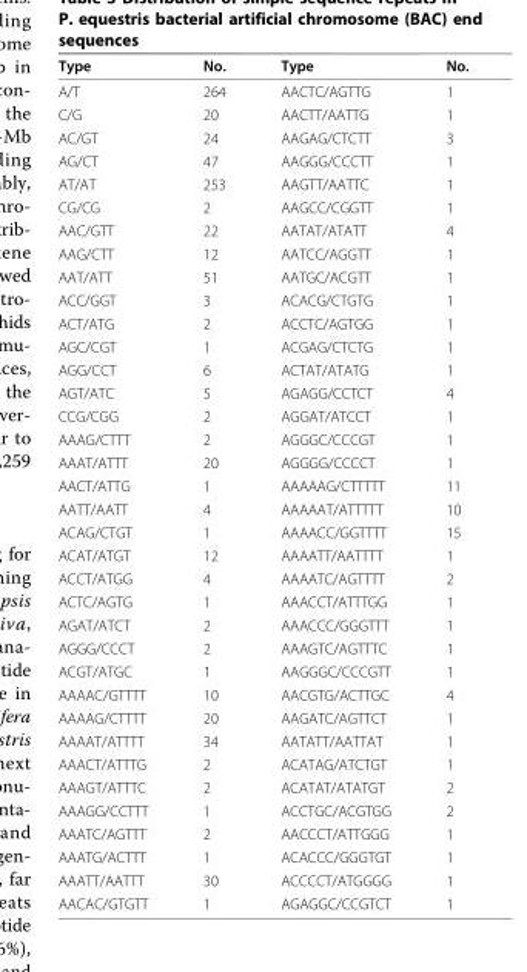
<table><thead><tr><td>Type</td><td>No.</td><td>Type</td><td>No.</td></tr></thead><tbody><tr><td>A/T</td><td>264</td><td>AACTC/AGTTG</td><td>1</td></tr><tr><td>C/G</td><td>20</td><td>AACTT/AATTG</td><td>1</td></tr><tr><td>AC/GT</td><td>24</td><td>AAGAG/CTCTT</td><td>3</td></tr><tr><td>AG/CT</td><td>47</td><td>AAGGG/CCCTT</td><td>1</td></tr><tr><td>AT/AT</td><td>253</td><td>AAGTT/AATTC</td><td>1</td></tr><tr><td>CG/CG</td><td>2</td><td>AAGCC/CGGTT</td><td>1</td></tr><tr><td>AAC/GTT</td><td>22</td><td>AATAT/ATATT</td><td>4</td></tr><tr><td>AAG/CTT</td><td>12</td><td>AATCC/AGGTT</td><td>1</td></tr><tr><td>AAT/ATT</td><td>51</td><td>AATGC/ACGTT</td><td>1</td></tr><tr><td>ACC/GGT</td><td>3</td><td>ACACG/CTGTG</td><td>1</td></tr><tr><td>ACT/ATG</td><td>2</td><td>ACCTC/AGTGG</td><td>1</td></tr><tr><td>AGC/CGT</td><td>1</td><td>ACGAG/CTCTG</td><td>1</td></tr><tr><td>AGG/CCT</td><td>6</td><td>ACTAT/ATATG</td><td>1</td></tr><tr><td>AGT/ATC</td><td>5</td><td>AGAGG/CCTCT</td><td>4</td></tr><tr><td>CCG/CGG</td><td>2</td><td>AGGAT/ATCCT</td><td>1</td></tr><tr><td>AAAG/CTTT</td><td>2</td><td>AGGGC/CCCGT</td><td>1</td></tr><tr><td>AAAT/ATTT</td><td>20</td><td>AGGGG/CCCCT</td><td>1</td></tr><tr><td>AACT/ATTG</td><td>1</td><td>AAAAAG/CTTTTT</td><td>11</td></tr><tr><td>AATT/AATT</td><td>4</td><td>AAAAAT/ATTTTT</td><td>10</td></tr><tr><td>ACAG/CTGT</td><td>1</td><td>AAAACC/GGTTTT</td><td>15</td></tr><tr><td>ACAT/ATGT</td><td>12</td><td>AAAATT/AATTTT</td><td>1</td></tr><tr><td>ACCT/ATGG</td><td>4</td><td>AAAATC/AGTTTT</td><td>2</td></tr><tr><td>ACTC/AGTG</td><td>1</td><td>AAACCT/ATTTGG</td><td>1</td></tr><tr><td>AGAT/ATCT</td><td>2</td><td>AAACCC/GGGTTT</td><td>1</td></tr><tr><td>AGGG/CCCT</td><td>2</td><td>AAAGTC/AGTTTC</td><td>1</td></tr><tr><td>ACGT/ATGC</td><td>1</td><td>AAGGGC/CCCGTT</td><td>1</td></tr><tr><td>AAAAC/GTTTT</td><td>10</td><td>AACGTG/ACTTGC</td><td>4</td></tr><tr><td>AAAAG/CTTTT</td><td>20</td><td>AAGATC/AGTTCT</td><td>1</td></tr><tr><td>AAAAT/ATTTT</td><td>34</td><td>AATATT/AATTAT</td><td>1</td></tr><tr><td>AAACT/ATTTG</td><td>2</td><td>ACATAG/ATCTGT</td><td>1</td></tr><tr><td>AAAGT/ATTTC</td><td>2</td><td>ACATAT/ATATGT</td><td>2</td></tr><tr><td>AAAGG/CCTTT</td><td>1</td><td>ACCTGC/ACGTGG</td><td>2</td></tr><tr><td>AAATC/AGTTT</td><td>2</td><td>AACCCT/ATTGGG</td><td>1</td></tr><tr><td>AAATG/ACTTT</td><td>1</td><td>ACACCC/GGGTGT</td><td>1</td></tr><tr><td>AAATT/AATTT</td><td>30</td><td>ACCCCT/ATGGGG</td><td>1</td></tr><tr><td>AACAC/GTGTT</td><td>1</td><td>AGAGGC/CCGTCT</td><td>1</td></tr></tbody></table>